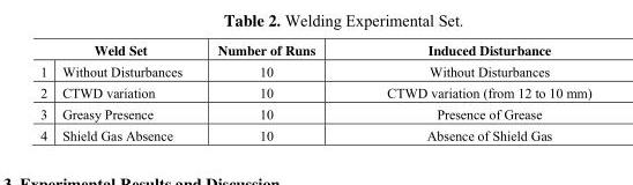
<table><thead><tr><td colspan="2">Weld Set</td><td rowspan="2">Number of Runs 10</td><td rowspan="2">Induced Disturbance Without Disturbances</td></tr><tr><td>1</td><td>Without Disturbances</td></tr></thead><tbody><tr><td>2</td><td>CTWD variation</td><td>10</td><td>CTWD variation (from 12 to 10 mm)</td></tr><tr><td>3</td><td>Greasy Presence</td><td>10</td><td>Presence of Grease</td></tr><tr><td>4</td><td>Shield Gas Absence</td><td>10</td><td>Absence of Shield Gas</td></tr></tbody></table>